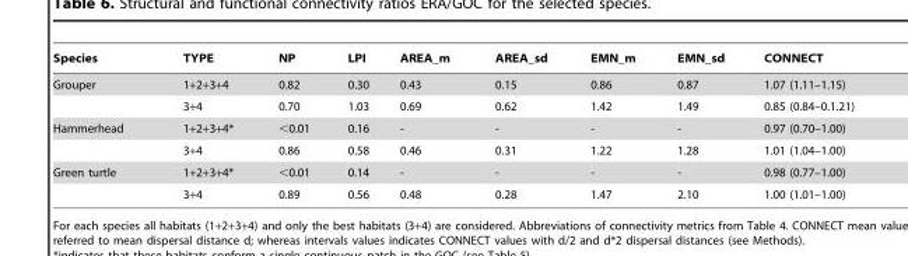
<table><thead><tr><td>Species</td><td>TYPE</td><td>NP</td><td>LPI</td><td>AREA_m</td><td>AREA_sd</td><td>EMN_m</td><td>EMN_sd</td><td>CONNECT</td></tr></thead><tbody><tr><td rowspan="2">Grouper</td><td>1+2+3+4</td><td>0.82</td><td>0.30</td><td>0.43</td><td>0.15</td><td>0.86</td><td>0.87</td><td>1.07 (1.11–1.15)</td></tr><tr><td>3+4</td><td>0.70</td><td>1.03</td><td>0.69</td><td>0.62</td><td>1.42</td><td>1.49</td><td>0.85 (0.84–0.1.21)</td></tr><tr><td rowspan="2">Hammerhead</td><td>1+2+3+4*</td><td>&lt;0.01</td><td>0.16</td><td>-</td><td>-</td><td>-</td><td>-</td><td>0.97 (0.70–1.00)</td></tr><tr><td>3+4</td><td>0.86</td><td>0.58</td><td>0.46</td><td>0.31</td><td>1.22</td><td>1.28</td><td>1.01 (1.04–1.00)</td></tr><tr><td rowspan="2">Green turtle</td><td>1+2+3+4*</td><td>&lt;0.01</td><td>0.14</td><td>-</td><td>-</td><td>-</td><td>-</td><td>0.98 (0.77–1.00)</td></tr><tr><td>3+4</td><td>0.89</td><td>0.56</td><td>0.48</td><td>0.28</td><td>1.47</td><td>2.10</td><td>1.00 (1.01–1.00)</td></tr></tbody></table>